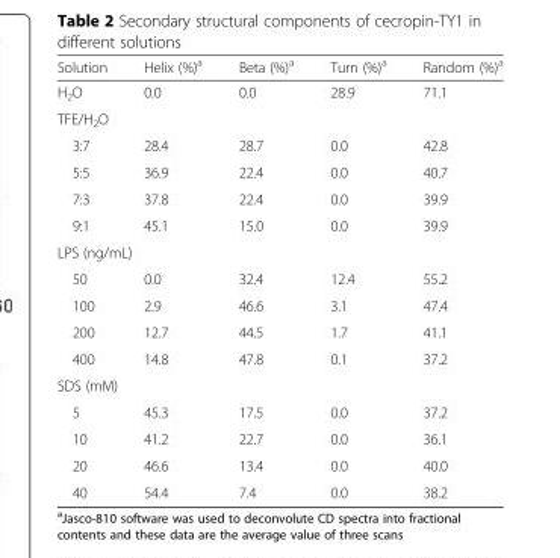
<table><thead><tr><td>Solution</td><td>Helix (%)<sup>a</sup></td><td>Beta (%)<sup>a</sup></td><td>Turn (%)<sup>a</sup></td><td>Random (%)<sup>a</sup></td></tr></thead><tbody><tr><td>H<sub>2</sub>O</td><td>0.0</td><td>0.0</td><td>28.9</td><td>71.1</td></tr><tr><td colspan="5">TFE/H<sub>2</sub>O</td></tr><tr><td>3:7</td><td>28.4</td><td>28.7</td><td>0.0</td><td>42.8</td></tr><tr><td>5:5</td><td>36.9</td><td>22.4</td><td>0.0</td><td>40.7</td></tr><tr><td>7:3</td><td>37.8</td><td>22.4</td><td>0.0</td><td>39.9</td></tr><tr><td>9:1</td><td>45.1</td><td>15.0</td><td>0.0</td><td>39.9</td></tr><tr><td colspan="5">LPS (ng/mL)</td></tr><tr><td>50</td><td>0.0</td><td>32.4</td><td>12.4</td><td>55.2</td></tr><tr><td>100</td><td>2.9</td><td>46.6</td><td>3.1</td><td>47.4</td></tr><tr><td>200</td><td>12.7</td><td>44.5</td><td>1.7</td><td>41.1</td></tr><tr><td>400</td><td>14.8</td><td>47.8</td><td>0.1</td><td>37.2</td></tr><tr><td colspan="5">SDS (mM)</td></tr><tr><td>5</td><td>45.3</td><td>17.5</td><td>0.0</td><td>37.2</td></tr><tr><td>10</td><td>41.2</td><td>22.7</td><td>0.0</td><td>36.1</td></tr><tr><td>20</td><td>46.6</td><td>13.4</td><td>0.0</td><td>40.0</td></tr><tr><td>40</td><td>54.4</td><td>7.4</td><td>0.0</td><td>38.2</td></tr></tbody></table>